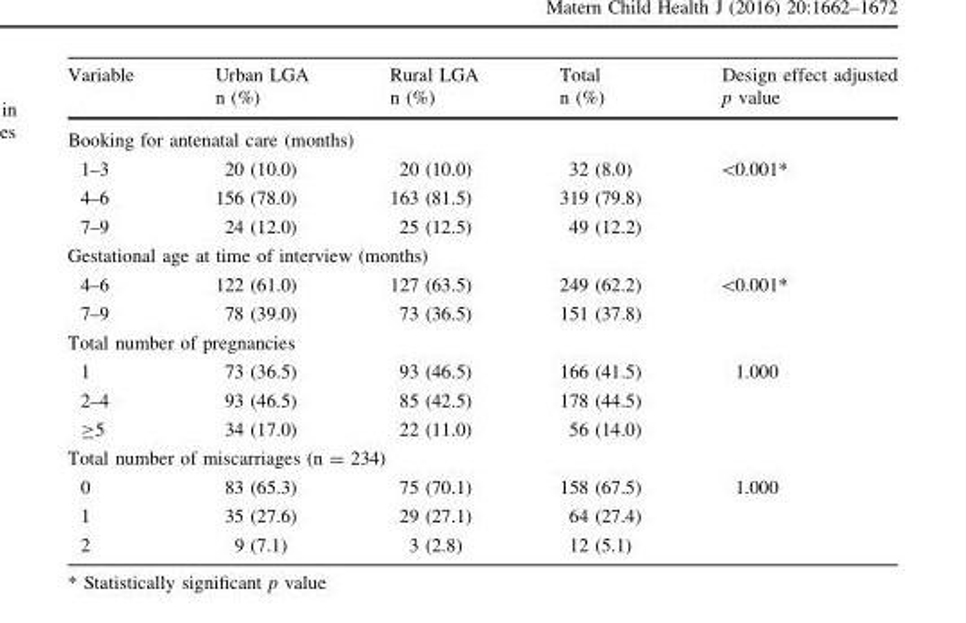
<table><thead><tr><td rowspan="2">Variable</td><td rowspan="2">Urban LGA n (%)</td><td rowspan="2">Rural LGA n (%)</td><td rowspan="2">Total n (%)</td><td rowspan="2">Design effect adjusted p value</td></tr><tr></tr></thead><tbody><tr><td colspan="5">Booking for antenatal care (months)</td></tr><tr><td>1–3</td><td>20 (10.0)</td><td>20 (10.0)</td><td>32 (8.0)</td><td rowspan="3">&lt;0.001*</td></tr><tr><td>4–6</td><td>156 (78.0)</td><td>163 (81.5)</td><td>319 (79.8)</td></tr><tr><td>7–9</td><td>24 (12.0)</td><td>25 (12.5)</td><td>49 (12.2)</td></tr><tr><td colspan="5">Gestational age at time of interview (months)</td></tr><tr><td>4–6</td><td>122 (61.0)</td><td>127 (63.5)</td><td>249 (62.2)</td><td rowspan="2">&lt;0.001*</td></tr><tr><td>7–9</td><td>78 (39.0)</td><td>73 (36.5)</td><td>151 (37.8)</td></tr><tr><td colspan="5">Total number of pregnancies</td></tr><tr><td>1</td><td>73 (36.5)</td><td>93 (46.5)</td><td>166 (41.5)</td><td rowspan="3">1.000</td></tr><tr><td>2–4</td><td>93 (46.5)</td><td>85 (42.5)</td><td>178 (44.5)</td></tr><tr><td>≥5</td><td>34 (17.0)</td><td>22 (11.0)</td><td>56 (14.0)</td></tr><tr><td colspan="5">Total number of miscarriages (n = 234)</td></tr><tr><td>0</td><td>83 (65.3)</td><td>75 (70.1)</td><td>158 (67.5)</td><td rowspan="3">1.000</td></tr><tr><td>1</td><td>35 (27.6)</td><td>29 (27.1)</td><td>64 (27.4)</td></tr><tr><td>2</td><td>9 (7.1)</td><td>3 (2.8)</td><td>12 (5.1)</td></tr></tbody></table>